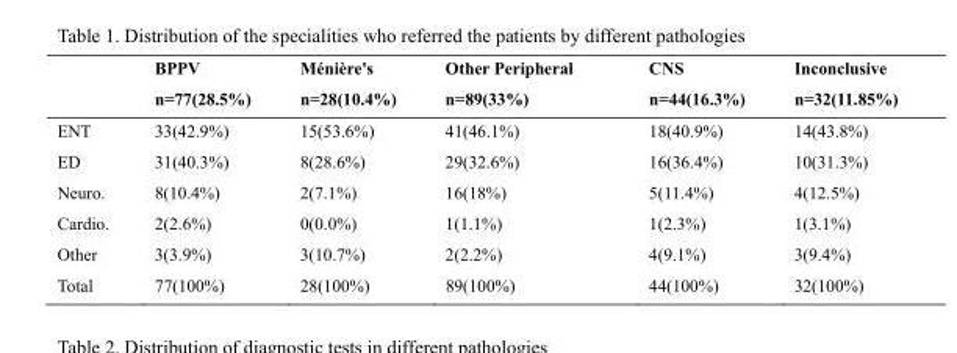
<table><thead><tr><td></td><td>BPPV n=77(28.5%)</td><td>Ménière&#x27;s n=28(10.4%)</td><td>Other Peripheral n=89(33%)</td><td>CNS n=44(16.3%)</td><td>Inconclusive n=32(11.85%)</td></tr></thead><tbody><tr><td>ENT</td><td>33(42.9%)</td><td>15(53.6%)</td><td>41(46.1%)</td><td>18(40.9%)</td><td>14(43.8%)</td></tr><tr><td>ED</td><td>31(40.3%)</td><td>8(28.6%)</td><td>29(32.6%)</td><td>16(36.4%)</td><td>10(31.3%)</td></tr><tr><td>Neuro.</td><td>8(10.4%)</td><td>2(7.1%)</td><td>16(18%)</td><td>5(11.4%)</td><td>4(12.5%)</td></tr><tr><td>Cardio.</td><td>2(2.6%)</td><td>0(0.0%)</td><td>1(1.1%)</td><td>1(2.3%)</td><td>1(3.1%)</td></tr><tr><td>Other</td><td>3(3.9%)</td><td>3(10.7%)</td><td>2(2.2%)</td><td>4(9.1%)</td><td>3(9.4%)</td></tr><tr><td>Total</td><td>77(100%)</td><td>28(100%)</td><td>89(100%)</td><td>44(100%)</td><td>32(100%)</td></tr></tbody></table>